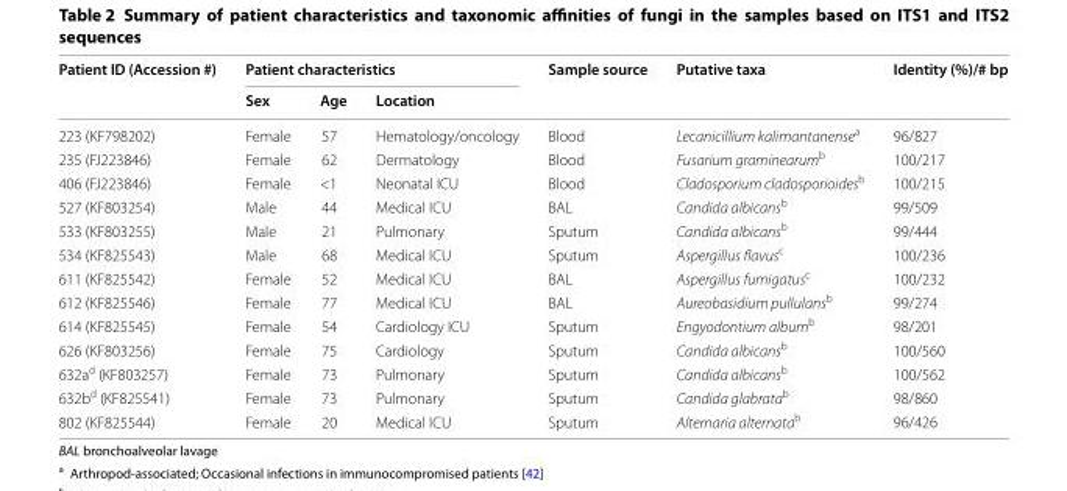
<table><thead><tr><td rowspan="2">Patient ID (Accession #)</td><td colspan="3">Patient characteristics</td><td rowspan="2">Sample source</td><td rowspan="2">Putative taxa</td><td rowspan="2">Identity (%)/# bp</td></tr><tr><td>Sex</td><td>Age</td><td>Location</td></tr></thead><tbody><tr><td>223 (KF798202)</td><td>Female</td><td>57</td><td>Hematology/oncology</td><td>Blood</td><td>Lecanicillium kalimantanense<sup>a</sup></td><td>96/827</td></tr><tr><td>235 (FJ223846)</td><td>Female</td><td>62</td><td>Dermatology</td><td>Blood</td><td>Fusarium graminearum<sup>b</sup></td><td>100/217</td></tr><tr><td>406 (FJ223846)</td><td>Female</td><td>&lt;1</td><td>Neonatal ICU</td><td>Blood</td><td>Cladosporium cladosporioides<sup>b</sup></td><td>100/215</td></tr><tr><td>527 (KF803254)</td><td>Male</td><td>44</td><td>Medical ICU</td><td>BAL</td><td>Candida albicans<sup>b</sup></td><td>99/509</td></tr><tr><td>533 (KF803255)</td><td>Male</td><td>21</td><td>Pulmonary</td><td>Sputum</td><td>Candida albicans<sup>b</sup></td><td>99/444</td></tr><tr><td>534 (KF825543)</td><td>Male</td><td>68</td><td>Medical ICU</td><td>Sputum</td><td>Aspergillus flavus<sup>c</sup></td><td>100/236</td></tr><tr><td>611 (KF825542)</td><td>Female</td><td>52</td><td>Medical ICU</td><td>BAL</td><td>Aspergillus fumigatus<sup>c</sup></td><td>100/232</td></tr><tr><td>612 (KF825546)</td><td>Female</td><td>77</td><td>Medical ICU</td><td>BAL</td><td>Aureobasidium pullulans<sup>b</sup></td><td>99/274</td></tr><tr><td>614 (KF825545)</td><td>Female</td><td>54</td><td>Cardiology ICU</td><td>Sputum</td><td>Engyodontium album<sup>b</sup></td><td>98/201</td></tr><tr><td>626 (KF803256)</td><td>Female</td><td>75</td><td>Cardiology</td><td>Sputum</td><td>Candida albicans<sup>b</sup></td><td>100/560</td></tr><tr><td>632a<sup>d</sup> (KF803257)</td><td>Female</td><td>73</td><td>Pulmonary</td><td>Sputum</td><td>Candida albicans<sup>b</sup></td><td>100/562</td></tr><tr><td>632b<sup>d</sup> (KF825541)</td><td>Female</td><td>73</td><td>Pulmonary</td><td>Sputum</td><td>Candida glabrata<sup>b</sup></td><td>98/860</td></tr><tr><td>802 (KF825544)</td><td>Female</td><td>20</td><td>Medical ICU</td><td>Sputum</td><td>Alternaria alternata<sup>b</sup></td><td>96/426</td></tr></tbody></table>